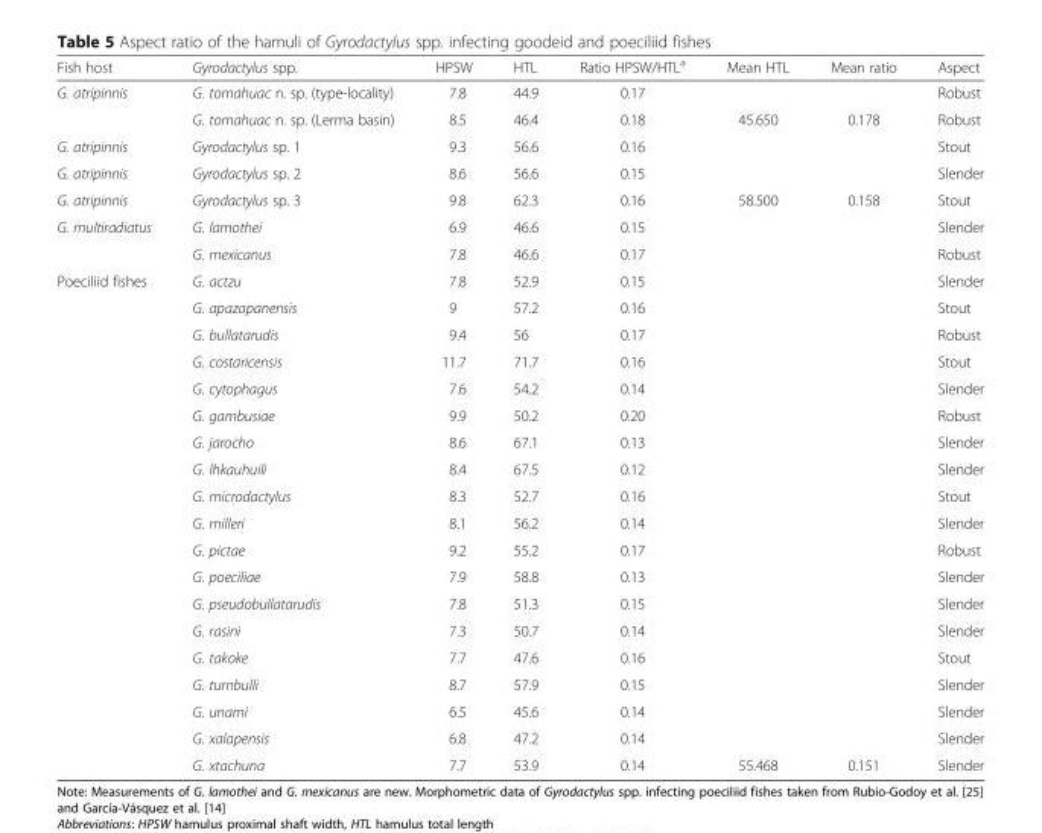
<table><thead><tr><td>Fish host</td><td>Gyrodactylus spp.</td><td>HPSW</td><td>HTL</td><td>Ratio HPSW/HTL<sup>a</sup></td><td>Mean HTL</td><td>Mean ratio</td><td>Aspect</td></tr></thead><tbody><tr><td rowspan="2">G. atripinnis</td><td>G. tomahuac n. sp. (type-locality)</td><td>7.8</td><td>44.9</td><td>0.17</td><td></td><td></td><td>Robust</td></tr><tr><td>G. tomahuac n. sp. (Lerma basin)</td><td>8.5</td><td>46.4</td><td>0.18</td><td>45.650</td><td>0.178</td><td>Robust</td></tr><tr><td>G. atripinnis</td><td>Gyrodactylus sp. 1</td><td>9.3</td><td>56.6</td><td>0.16</td><td></td><td></td><td>Stout</td></tr><tr><td>G. atripinnis</td><td>Gyrodactylus sp. 2</td><td>8.6</td><td>56.6</td><td>0.15</td><td></td><td></td><td>Slender</td></tr><tr><td>G. atripinnis</td><td>Gyrodactylus sp. 3</td><td>9.8</td><td>62.3</td><td>0.16</td><td>58.500</td><td>0.158</td><td>Stout</td></tr><tr><td rowspan="2">G. multiradiatus</td><td>G. lamothei</td><td>6.9</td><td>46.6</td><td>0.15</td><td></td><td></td><td>Slender</td></tr><tr><td>G. mexicanus</td><td>7.8</td><td>46.6</td><td>0.17</td><td></td><td></td><td>Robust</td></tr><tr><td rowspan="19">Poeciliid fishes</td><td>G. actzu</td><td>7.8</td><td>52.9</td><td>0.15</td><td></td><td></td><td>Slender</td></tr><tr><td>G. apazapanensis</td><td>9</td><td>57.2</td><td>0.16</td><td></td><td></td><td>Stout</td></tr><tr><td>G. bullatarudis</td><td>9.4</td><td>56</td><td>0.17</td><td></td><td></td><td>Robust</td></tr><tr><td>G. costaricensis</td><td>11.7</td><td>71.7</td><td>0.16</td><td></td><td></td><td>Stout</td></tr><tr><td>G. cytophagus</td><td>7.6</td><td>54.2</td><td>0.14</td><td></td><td></td><td>Slender</td></tr><tr><td>G. gambusiae</td><td>9.9</td><td>50.2</td><td>0.20</td><td></td><td></td><td>Robust</td></tr><tr><td>G. jarocho</td><td>8.6</td><td>67.1</td><td>0.13</td><td></td><td></td><td>Slender</td></tr><tr><td>G. lhkauhuili</td><td>8.4</td><td>67.5</td><td>0.12</td><td></td><td></td><td>Slender</td></tr><tr><td>G. microdactylus</td><td>8.3</td><td>52.7</td><td>0.16</td><td></td><td></td><td>Stout</td></tr><tr><td>G. milleri</td><td>8.1</td><td>56.2</td><td>0.14</td><td></td><td></td><td>Slender</td></tr><tr><td>G. pictae</td><td>9.2</td><td>55.2</td><td>0.17</td><td></td><td></td><td>Robust</td></tr><tr><td>G. poeciliae</td><td>7.9</td><td>58.8</td><td>0.13</td><td></td><td></td><td>Slender</td></tr><tr><td>G. pseudobullatarudis</td><td>7.8</td><td>51.3</td><td>0.15</td><td></td><td></td><td>Slender</td></tr><tr><td>G. rasini</td><td>7.3</td><td>50.7</td><td>0.14</td><td></td><td></td><td>Slender</td></tr><tr><td>G. takoke</td><td>7.7</td><td>47.6</td><td>0.16</td><td></td><td></td><td>Stout</td></tr><tr><td>G. turnbulli</td><td>8.7</td><td>57.9</td><td>0.15</td><td></td><td></td><td>Slender</td></tr><tr><td>G. unami</td><td>6.5</td><td>45.6</td><td>0.14</td><td></td><td></td><td>Slender</td></tr><tr><td>G. xalapensis</td><td>6.8</td><td>47.2</td><td>0.14</td><td></td><td></td><td>Slender</td></tr><tr><td>G. xtachuna</td><td>7.7</td><td>53.9</td><td>0.14</td><td>55.468</td><td>0.151</td><td>Slender</td></tr></tbody></table>